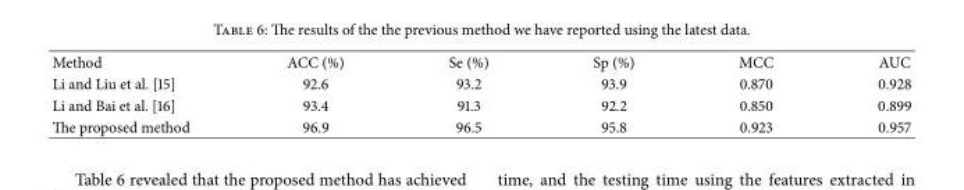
<table><tbody><tr><td>Method</td><td>ACC (%)</td><td>Se (%)</td><td>Sp (%)</td><td>MCC</td><td>AUC</td></tr><tr><td>Li and Liu et al. [15]</td><td>92.6</td><td>93.2</td><td>93.9</td><td>0.870</td><td>0.928</td></tr><tr><td>Li and Bai et al. [16]</td><td>93.4</td><td>91.3</td><td>92.2</td><td>0.850</td><td>0.899</td></tr><tr><td>The proposed method</td><td>96.9</td><td>96.5</td><td>95.8</td><td>0.923</td><td>0.957</td></tr></tbody></table>